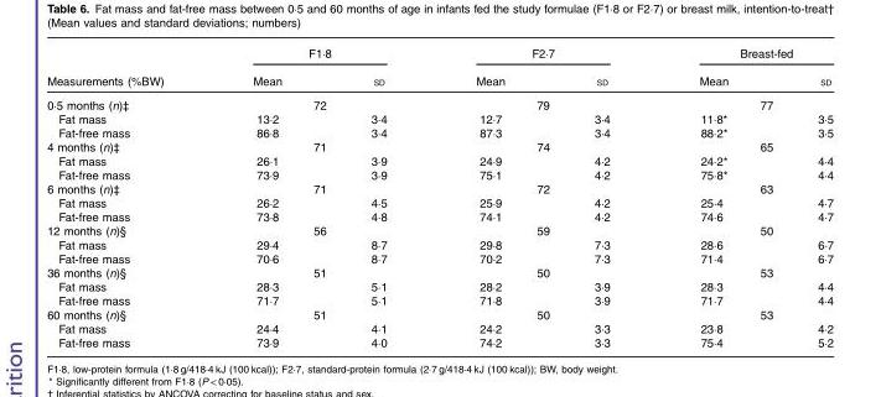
<table><thead><tr><td rowspan="2">Measurements (%BW)</td><td colspan="2">F1·8</td><td colspan="2">F2·7</td><td colspan="2">Breast-fed</td></tr><tr><td>Mean</td><td>SD</td><td>Mean</td><td>SD</td><td>Mean</td><td>SD</td></tr></thead><tbody><tr><td>0·5 months (n)‡</td><td colspan="2">72</td><td colspan="2">79</td><td colspan="2">77</td></tr><tr><td>Fat mass</td><td>13·2</td><td>3·4</td><td>12·7</td><td>3·4</td><td>11·8*</td><td>3·5</td></tr><tr><td>Fat-free mass</td><td>86·8</td><td>3·4</td><td>87·3</td><td>3·4</td><td>88·2*</td><td>3·5</td></tr><tr><td>4 months (n)‡</td><td colspan="2">71</td><td colspan="2">74</td><td colspan="2">65</td></tr><tr><td>Fat mass</td><td>26·1</td><td>3·9</td><td>24·9</td><td>4·2</td><td>24·2*</td><td>4·4</td></tr><tr><td>Fat-free mass</td><td>73·9</td><td>3·9</td><td>75·1</td><td>4·2</td><td>75·8*</td><td>4·4</td></tr><tr><td>6 months (n)‡</td><td colspan="2">71</td><td colspan="2">72</td><td colspan="2">63</td></tr><tr><td>Fat mass</td><td>26·2</td><td>4·5</td><td>25·9</td><td>4·2</td><td>25·4</td><td>4·7</td></tr><tr><td>Fat-free mass</td><td>73·8</td><td>4·8</td><td>74·1</td><td>4·2</td><td>74·6</td><td>4·7</td></tr><tr><td>12 months (n)§</td><td colspan="2">56</td><td colspan="2">59</td><td colspan="2">50</td></tr><tr><td>Fat mass</td><td>29·4</td><td>8·7</td><td>29·8</td><td>7·3</td><td>28·6</td><td>6·7</td></tr><tr><td>Fat-free mass</td><td>70·6</td><td>8·7</td><td>70·2</td><td>7·3</td><td>71·4</td><td>6·7</td></tr><tr><td>36 months (n)§</td><td colspan="2">51</td><td colspan="2">50</td><td colspan="2">53</td></tr><tr><td>Fat mass</td><td>28·3</td><td>5·1</td><td>28·2</td><td>3·9</td><td>28·3</td><td>4·4</td></tr><tr><td>Fat-free mass</td><td>71·7</td><td>5·1</td><td>71·8</td><td>3·9</td><td>71·7</td><td>4·4</td></tr><tr><td>60 months (n)§</td><td colspan="2">51</td><td colspan="2">50</td><td colspan="2">53</td></tr><tr><td>Fat mass</td><td>24·4</td><td>4·1</td><td>24·2</td><td>3·3</td><td>23·8</td><td>4·2</td></tr><tr><td>Fat-free mass</td><td>73·9</td><td>4·0</td><td>74·2</td><td>3·3</td><td>75·4</td><td>5·2</td></tr></tbody></table>